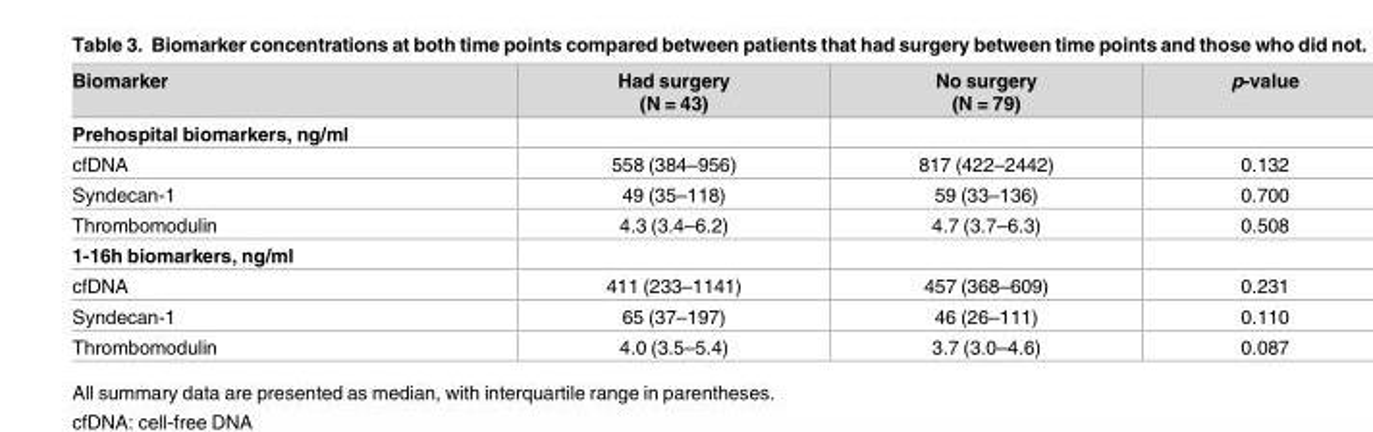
<table><thead><tr><td>Biomarker</td><td>Had surgery (N = 43)</td><td>No surgery (N = 79)</td><td>p-value</td></tr></thead><tbody><tr><td colspan="4">Prehospital biomarkers, ng/ml</td></tr><tr><td>cfDNA</td><td>558 (384–956)</td><td>817 (422–2442)</td><td>0.132</td></tr><tr><td>Syndecan-1</td><td>49 (35–118)</td><td>59 (33–136)</td><td>0.700</td></tr><tr><td>Thrombomodulin</td><td>4.3 (3.4–6.2)</td><td>4.7 (3.7–6.3)</td><td>0.508</td></tr><tr><td colspan="4">1-16h biomarkers, ng/ml</td></tr><tr><td>cfDNA</td><td>411 (233–1141)</td><td>457 (368–609)</td><td>0.231</td></tr><tr><td>Syndecan-1</td><td>65 (37–197)</td><td>46 (26–111)</td><td>0.110</td></tr><tr><td>Thrombomodulin</td><td>4.0 (3.5–5.4)</td><td>3.7 (3.0–4.6)</td><td>0.087</td></tr></tbody></table>